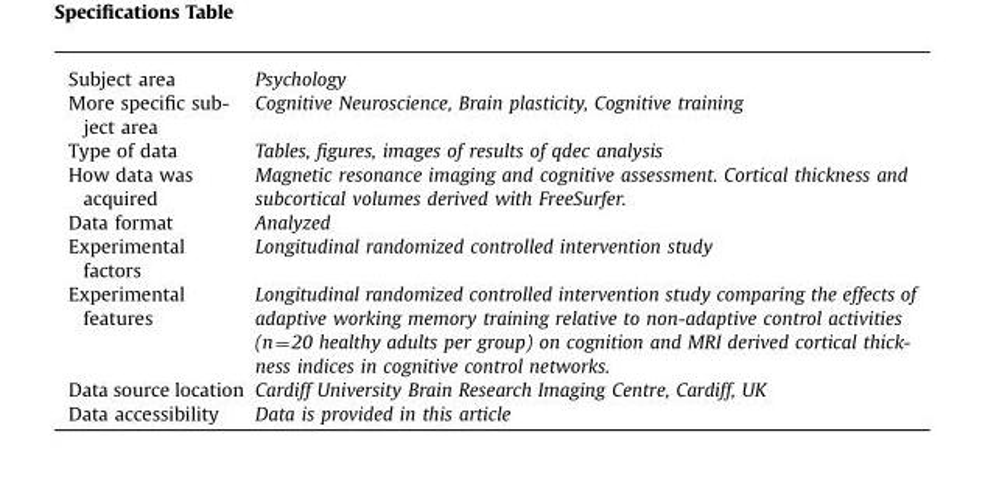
<table><tbody><tr><td>Subject area</td><td>Psychology</td></tr><tr><td>More specific sub- ject area</td><td>Cognitive Neuroscience, Brain plasticity, Cognitive training</td></tr><tr><td>Type of data</td><td>Tables, figures, images of results of qdec analysis</td></tr><tr><td>How data was acquired</td><td>Magnetic resonance imaging and cognitive assessment. Cortical thickness and subcortical volumes derived with FreeSurfer.</td></tr><tr><td>Data format</td><td>Analyzed</td></tr><tr><td>Experimental factors</td><td>Longitudinal randomized controlled intervention study</td></tr><tr><td>Experimental features</td><td>Longitudinal randomized controlled intervention study comparing the effects of adaptive working memory training relative to non-adaptive control activities (n¼20 healthy adults per group) on cognition and MRI derived cortical thick- ness indices in cognitive control networks.</td></tr><tr><td>Data source location</td><td>Cardiff University Brain Research Imaging Centre, Cardiff, UK</td></tr><tr><td>Data accessibility</td><td>Data is provided in this article</td></tr></tbody></table>